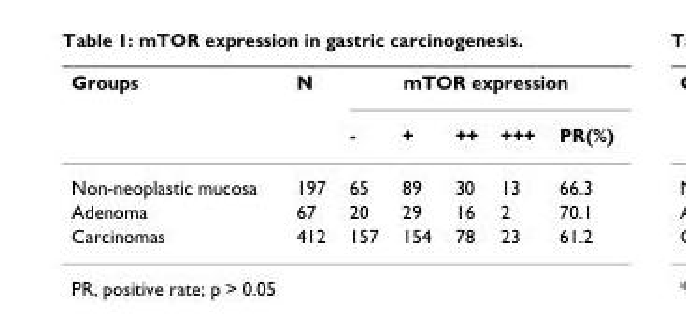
<table><thead><tr><td rowspan="2">Groups</td><td rowspan="2">N</td><td colspan="5">mTOR expression</td></tr><tr><td>-</td><td>+</td><td>++</td><td>+++</td><td>PR(%)</td></tr></thead><tbody><tr><td>Non-neoplastic mucosa</td><td>197</td><td>65</td><td>89</td><td>30</td><td>13</td><td>66.3</td></tr><tr><td>Adenoma</td><td>67</td><td>20</td><td>29</td><td>16</td><td>2</td><td>70.1</td></tr><tr><td>Carcinomas</td><td>412</td><td>157</td><td>154</td><td>78</td><td>23</td><td>61.2</td></tr></tbody></table>